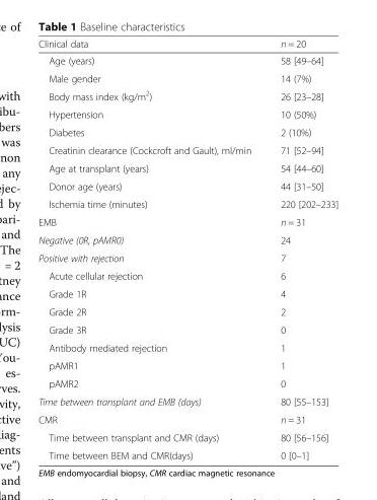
<table><thead><tr><td>Clinical data</td><td>n = 20</td></tr></thead><tbody><tr><td>Age (years)</td><td>58 [49–64]</td></tr><tr><td>Male gender</td><td>14 (7%)</td></tr><tr><td>Body mass index (kg/m<sup>2</sup>)</td><td>26 [23–28]</td></tr><tr><td>Hypertension</td><td>10 (50%)</td></tr><tr><td>Diabetes</td><td>2 (10%)</td></tr><tr><td>Creatinin clearance (Cockcroft and Gault), ml/min</td><td>71 [52–94]</td></tr><tr><td>Age at transplant (years)</td><td>54 [44–60]</td></tr><tr><td>Donor age (years)</td><td>44 [31–50]</td></tr><tr><td>Ischemia time (minutes)</td><td>220 [202–233]</td></tr><tr><td>EMB</td><td>n = 31</td></tr><tr><td>Negative (0R, pAMR0)</td><td>24</td></tr><tr><td>Positive with rejection</td><td>7</td></tr><tr><td>Acute cellular rejection</td><td>6</td></tr><tr><td>Grade 1R</td><td>4</td></tr><tr><td>Grade 2R</td><td>2</td></tr><tr><td>Grade 3R</td><td>0</td></tr><tr><td>Antibody mediated rejection</td><td>1</td></tr><tr><td>pAMR1</td><td>1</td></tr><tr><td>pAMR2</td><td>0</td></tr><tr><td>Time between transplant and EMB (days)</td><td>80 [55–153]</td></tr><tr><td>CMR</td><td>n = 31</td></tr><tr><td>Time between transplant and CMR (days)</td><td>80 [56–156]</td></tr><tr><td>Time between BEM and CMR(days)</td><td>0 [0–1]</td></tr></tbody></table>